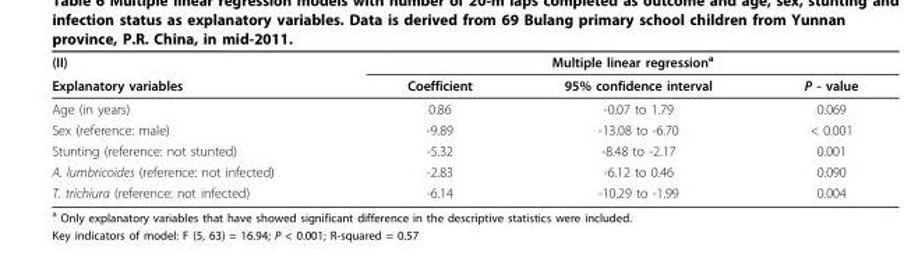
<table><thead><tr><td rowspan="2">(II) Explanatory variables</td><td colspan="3">Multiple linear regression<sup>a</sup></td></tr><tr><td>Coefficient</td><td>95% confidence interval</td><td>P - value</td></tr></thead><tbody><tr><td>Age (in years)</td><td>0.86</td><td>-0.07 to 1.79</td><td>0.069</td></tr><tr><td>Sex (reference: male)</td><td>-9.89</td><td>-13.08 to -6.70</td><td>&lt; 0.001</td></tr><tr><td>Stunting (reference: not stunted)</td><td>-5.32</td><td>-8.48 to -2.17</td><td>0.001</td></tr><tr><td>A. lumbricoides (reference: not infected)</td><td>-2.83</td><td>-6.12 to 0.46</td><td>0.090</td></tr><tr><td>T. trichiura (reference: not infected)</td><td>-6.14</td><td>-10.29 to -1.99</td><td>0.004</td></tr></tbody></table>